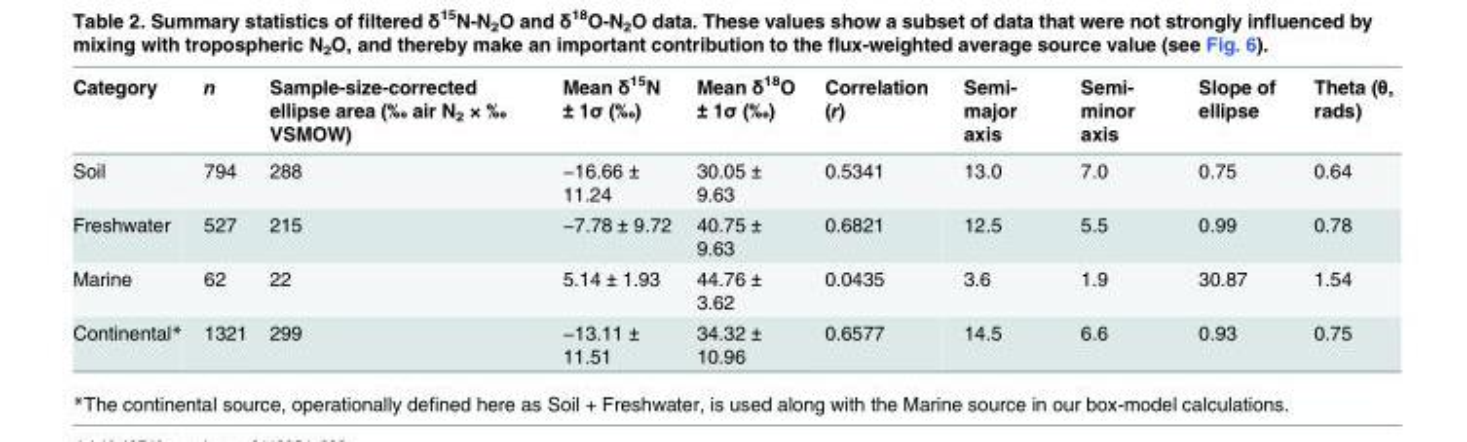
<table><thead><tr><td>Category</td><td>n</td><td>Sample-size-corrected ellipse area (‰ air N<sub>2</sub> × ‰ VSMOW)</td><td>Mean δ<sup>15</sup>N ± 1σ (‰)</td><td>Mean δ<sup>18</sup>O ± 1σ (‰)</td><td>Correlation (r)</td><td>Semi- major axis</td><td>Semi- minor axis</td><td>Slope of ellipse</td><td>Theta (θ, rads)</td></tr></thead><tbody><tr><td>Soil</td><td>794</td><td>288</td><td>−16.66 ± 11.24</td><td>30.05 ± 9.63</td><td>0.5341</td><td>13.0</td><td>7.0</td><td>0.75</td><td>0.64</td></tr><tr><td>Freshwater</td><td>527</td><td>215</td><td>−7.78 ± 9.72</td><td>40.75 ± 9.63</td><td>0.6821</td><td>12.5</td><td>5.5</td><td>0.99</td><td>0.78</td></tr><tr><td>Marine</td><td>62</td><td>22</td><td>5.14 ± 1.93</td><td>44.76 ± 3.62</td><td>0.0435</td><td>3.6</td><td>1.9</td><td>30.87</td><td>1.54</td></tr><tr><td>Continental*</td><td>1321</td><td>299</td><td>−13.11 ± 11.51</td><td>34.32 ± 10.96</td><td>0.6577</td><td>14.5</td><td>6.6</td><td>0.93</td><td>0.75</td></tr></tbody></table>